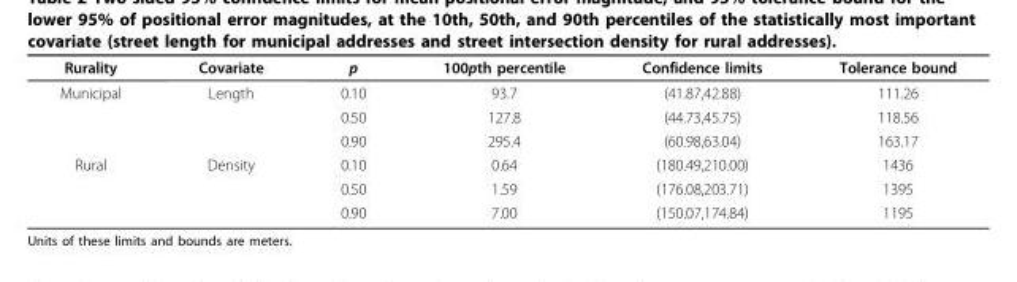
<table><thead><tr><td>Rurality</td><td>Covariate</td><td>p</td><td>100pth percentile</td><td>Confidence limits</td><td>Tolerance bound</td></tr></thead><tbody><tr><td rowspan="3">Municipal</td><td>Length</td><td>0.10</td><td>93.7</td><td>(41.87,42.88)</td><td>111.26</td></tr><tr><td></td><td>0.50</td><td>127.8</td><td>(44.73,45.75)</td><td>118.56</td></tr><tr><td></td><td>0.90</td><td>295.4</td><td>(60.98,63.04)</td><td>163.17</td></tr><tr><td rowspan="3">Rural</td><td>Density</td><td>0.10</td><td>0.64</td><td>(180.49,210.00)</td><td>1436</td></tr><tr><td></td><td>0.50</td><td>1.59</td><td>(176.08,203.71)</td><td>1395</td></tr><tr><td></td><td>0.90</td><td>7.00</td><td>(150.07,174.84)</td><td>1195</td></tr></tbody></table>